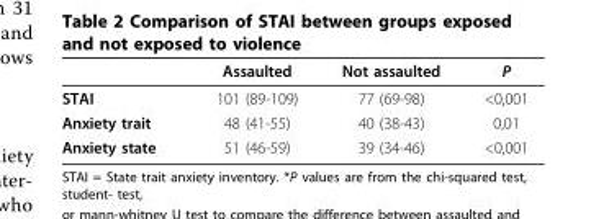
<table><thead><tr><td></td><td>Assaulted</td><td>Not assaulted</td><td>P</td></tr></thead><tbody><tr><td>STAI</td><td>101 (89-109)</td><td>77 (69-98)</td><td>&lt;0,001</td></tr><tr><td>Anxiety trait</td><td>48 (41-55)</td><td>40 (38-43)</td><td>0,01</td></tr><tr><td>Anxiety state</td><td>51 (46-59)</td><td>39 (34-46)</td><td>&lt;0,001</td></tr></tbody></table>